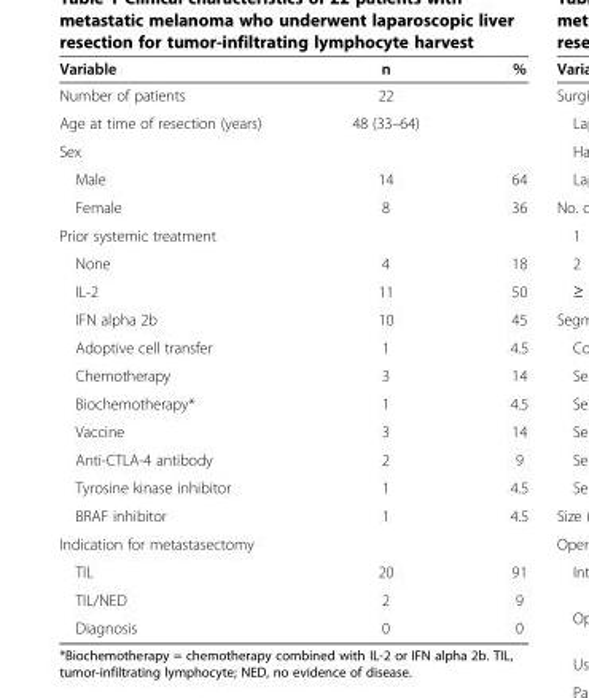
<table><thead><tr><td>Variable</td><td>n</td><td>%</td></tr></thead><tbody><tr><td>Number of patients</td><td>22</td><td></td></tr><tr><td>Age at time of resection (years)</td><td>48 (33–64)</td><td></td></tr><tr><td colspan="3">Sex</td></tr><tr><td>Male</td><td>14</td><td>64</td></tr><tr><td>Female</td><td>8</td><td>36</td></tr><tr><td colspan="3">Prior systemic treatment</td></tr><tr><td>None</td><td>4</td><td>18</td></tr><tr><td>IL-2</td><td>11</td><td>50</td></tr><tr><td>IFN alpha 2b</td><td>10</td><td>45</td></tr><tr><td>Adoptive cell transfer</td><td>1</td><td>4.5</td></tr><tr><td>Chemotherapy</td><td>3</td><td>14</td></tr><tr><td>Biochemotherapy*</td><td>1</td><td>4.5</td></tr><tr><td>Vaccine</td><td>3</td><td>14</td></tr><tr><td>Anti-CTLA-4 antibody</td><td>2</td><td>9</td></tr><tr><td>Tyrosine kinase inhibitor</td><td>1</td><td>4.5</td></tr><tr><td>BRAF inhibitor</td><td>1</td><td>4.5</td></tr><tr><td colspan="3">Indication for metastasectomy</td></tr><tr><td>TIL</td><td>20</td><td>91</td></tr><tr><td>TIL/NED</td><td>2</td><td>9</td></tr><tr><td>Diagnosis</td><td>0</td><td>0</td></tr></tbody></table>